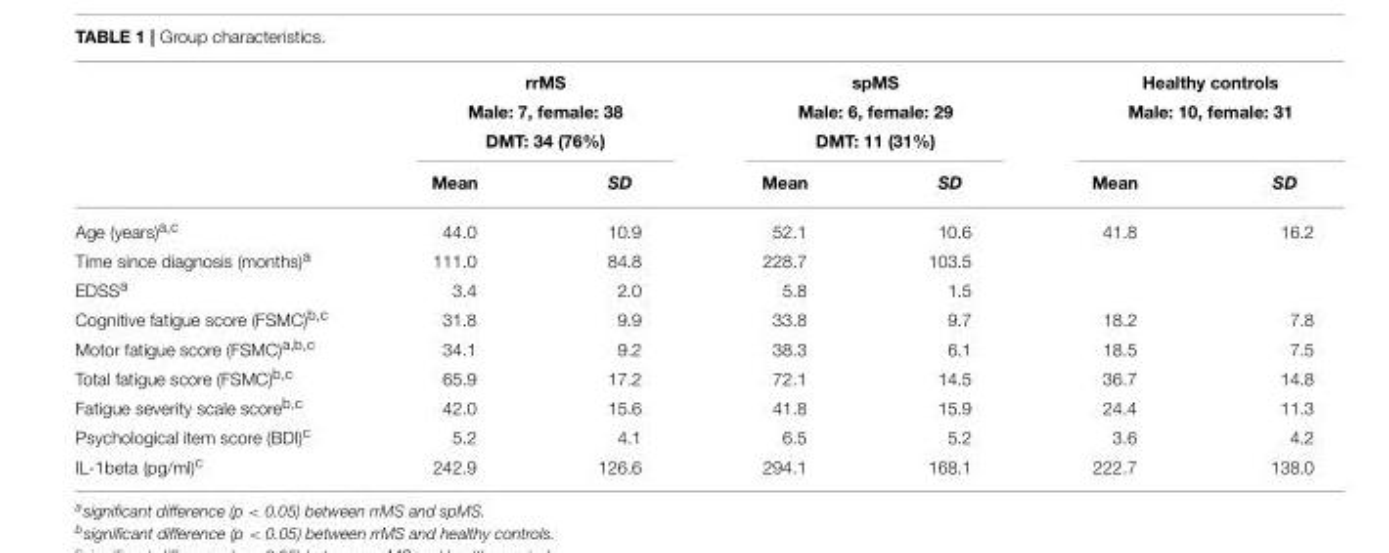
<table><thead><tr><td rowspan="4"></td><td rowspan="3" colspan="2">rrMS Male: 7, female: 38 DMT: 34 (76%)</td><td rowspan="3" colspan="2">spMS Male: 6, female: 29 DMT: 11 (31%)</td><td rowspan="2" colspan="2">Healthy controls Male: 10, female: 31</td></tr><tr></tr><tr><td rowspan="2">Mean</td><td rowspan="2">SD</td></tr><tr><td>Mean</td><td>SD</td><td>Mean</td><td>SD</td></tr></thead><tbody><tr><td>Age (years)<sup>a,c</sup></td><td>44.0</td><td>10.9</td><td>52.1</td><td>10.6</td><td>41.8</td><td>16.2</td></tr><tr><td>Time since diagnosis (months)<sup>a</sup></td><td>111.0</td><td>84.8</td><td>228.7</td><td>103.5</td><td></td><td></td></tr><tr><td>EDSS<sup>a</sup></td><td>3.4</td><td>2.0</td><td>5.8</td><td>1.5</td><td></td><td></td></tr><tr><td>Cognitive fatigue score (FSMC)<sup>b,c</sup></td><td>31.8</td><td>9.9</td><td>33.8</td><td>9.7</td><td>18.2</td><td>7.8</td></tr><tr><td>Motor fatigue score (FSMC)<sup>a,b,c</sup></td><td>34.1</td><td>9.2</td><td>38.3</td><td>6.1</td><td>18.5</td><td>7.5</td></tr><tr><td>Total fatigue score (FSMC)<sup>b,c</sup></td><td>65.9</td><td>17.2</td><td>72.1</td><td>14.5</td><td>36.7</td><td>14.8</td></tr><tr><td>Fatigue severity scale score<sup>b,c</sup></td><td>42.0</td><td>15.6</td><td>41.8</td><td>15.9</td><td>24.4</td><td>11.3</td></tr><tr><td>Psychological item score (BDI)<sup>c</sup></td><td>5.2</td><td>4.1</td><td>6.5</td><td>5.2</td><td>3.6</td><td>4.2</td></tr><tr><td>IL-1beta (pg/ml)<sup>c</sup></td><td>242.9</td><td>126.6</td><td>294.1</td><td>168.1</td><td>222.7</td><td>138.0</td></tr></tbody></table>